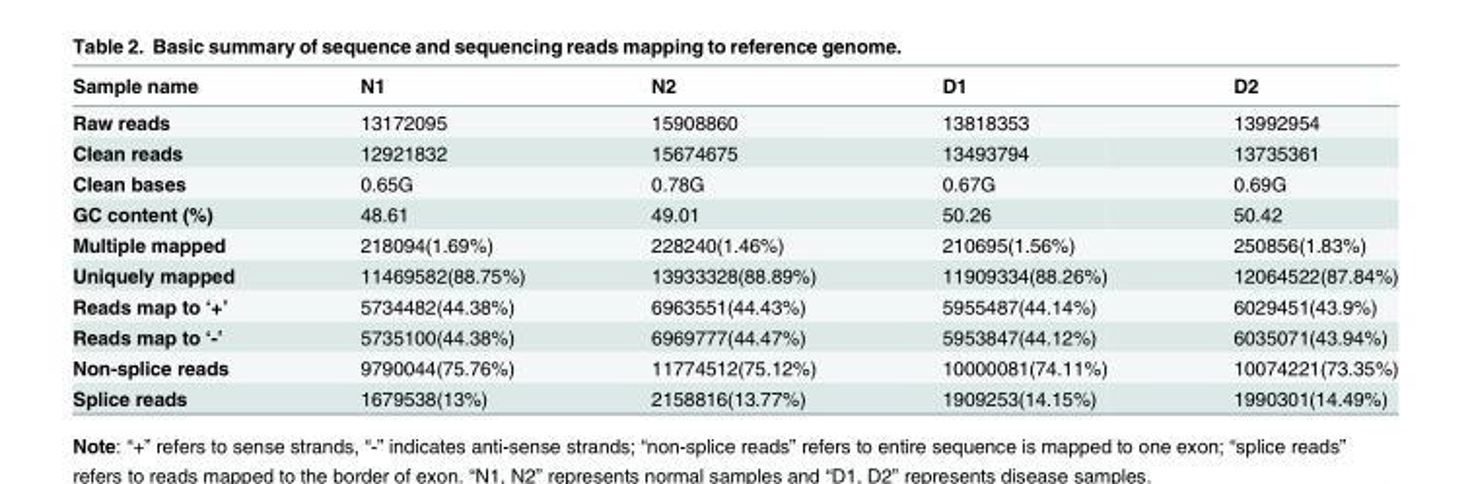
<table><thead><tr><td>Sample name</td><td>N1</td><td>N2</td><td>D1</td><td>D2</td></tr></thead><tbody><tr><td>Raw reads</td><td>13172095</td><td>15908860</td><td>13818353</td><td>13992954</td></tr><tr><td>Clean reads</td><td>12921832</td><td>15674675</td><td>13493794</td><td>13735361</td></tr><tr><td>Clean bases</td><td>0.65G</td><td>0.78G</td><td>0.67G</td><td>0.69G</td></tr><tr><td>GC content (%)</td><td>48.61</td><td>49.01</td><td>50.26</td><td>50.42</td></tr><tr><td>Multiple mapped</td><td>218094(1.69%)</td><td>228240(1.46%)</td><td>210695(1.56%)</td><td>250856(1.83%)</td></tr><tr><td>Uniquely mapped</td><td>11469582(88.75%)</td><td>13933328(88.89%)</td><td>11909334(88.26%)</td><td>12064522(87.84%)</td></tr><tr><td>Reads map to ‘+’</td><td>5734482(44.38%)</td><td>6963551(44.43%)</td><td>5955487(44.14%)</td><td>6029451(43.9%)</td></tr><tr><td>Reads map to ‘-’</td><td>5735100(44.38%)</td><td>6969777(44.47%)</td><td>5953847(44.12%)</td><td>6035071(43.94%)</td></tr><tr><td>Non-splice reads</td><td>9790044(75.76%)</td><td>11774512(75.12%)</td><td>10000081(74.11%)</td><td>10074221(73.35%)</td></tr><tr><td>Splice reads</td><td>1679538(13%)</td><td>2158816(13.77%)</td><td>1909253(14.15%)</td><td>1990301(14.49%)</td></tr></tbody></table>